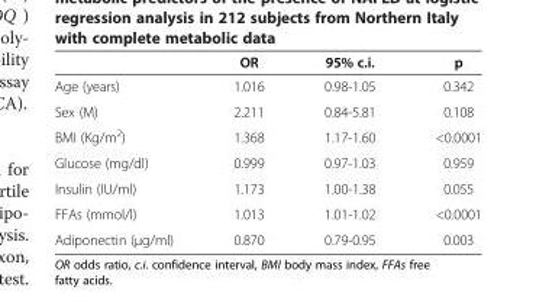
<table><thead><tr><td></td><td>OR</td><td>95% c.i.</td><td>p</td></tr></thead><tbody><tr><td>Age (years)</td><td>1.016</td><td>0.98-1.05</td><td>0.342</td></tr><tr><td>Sex (M)</td><td>2.211</td><td>0.84-5.81</td><td>0.108</td></tr><tr><td>BMI (Kg/m<sup>2</sup>)</td><td>1.368</td><td>1.17-1.60</td><td>&lt;0.0001</td></tr><tr><td>Glucose (mg/dl)</td><td>0.999</td><td>0.97-1.03</td><td>0.959</td></tr><tr><td>Insulin (IU/ml)</td><td>1.173</td><td>1.00-1.38</td><td>0.055</td></tr><tr><td>FFAs (mmol/l)</td><td>1.013</td><td>1.01-1.02</td><td>&lt;0.0001</td></tr><tr><td>Adiponectin (μg/ml)</td><td>0.870</td><td>0.79-0.95</td><td>0.003</td></tr></tbody></table>